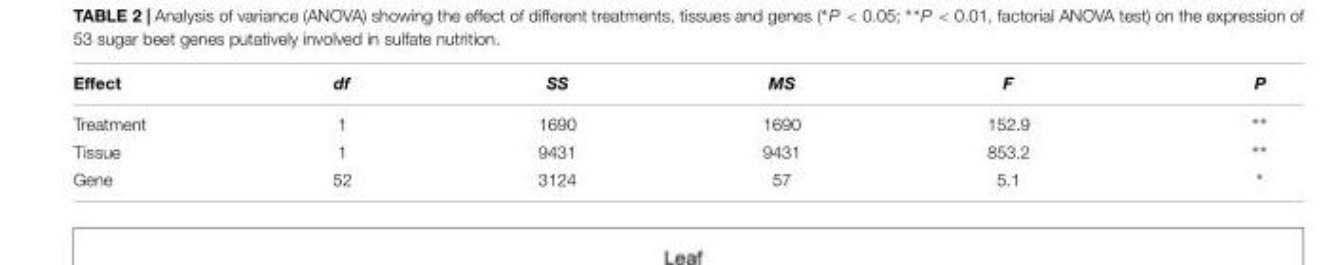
<table><thead><tr><td>Effect</td><td>df</td><td>SS</td><td>MS</td><td>F</td><td>P</td></tr></thead><tbody><tr><td>Treatment</td><td>1</td><td>1690</td><td>1690</td><td>152.9</td><td>∗∗</td></tr><tr><td>Tissue</td><td>1</td><td>9431</td><td>9431</td><td>853.2</td><td>∗∗</td></tr><tr><td>Gene</td><td>52</td><td>3124</td><td>57</td><td>5.1</td><td>∗</td></tr></tbody></table>